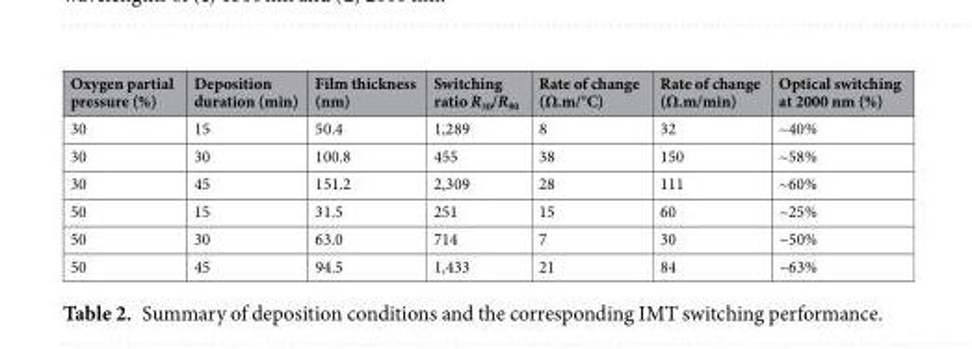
<table><thead><tr><td>Oxygen partial pressure (%)</td><td>Deposition duration (min)</td><td>Film thickness (nm)</td><td>Switching ratio R<sub>30</sub>/R<sub>90</sub></td><td>Rate of change (Ω.m/°C)</td><td>Rate of change (Ω.m/min)</td><td>Optical switching at 2000 nm (%)</td></tr></thead><tbody><tr><td>30</td><td>15</td><td>50.4</td><td>1,289</td><td>8</td><td>32</td><td>~40%</td></tr><tr><td>30</td><td>30</td><td>100.8</td><td>455</td><td>38</td><td>150</td><td>~58%</td></tr><tr><td>30</td><td>45</td><td>151.2</td><td>2,309</td><td>28</td><td>111</td><td>~60%</td></tr><tr><td>50</td><td>15</td><td>31.5</td><td>251</td><td>15</td><td>60</td><td>~25%</td></tr><tr><td>50</td><td>30</td><td>63.0</td><td>714</td><td>7</td><td>30</td><td>~50%</td></tr><tr><td>50</td><td>45</td><td>94.5</td><td>1,433</td><td>21</td><td>84</td><td>~63%</td></tr></tbody></table>